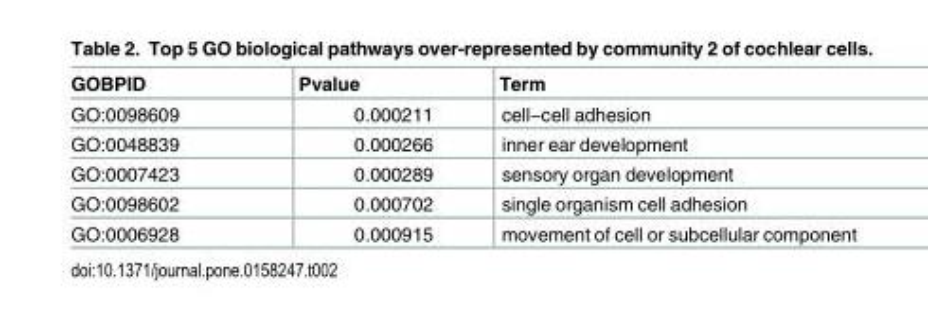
<table><thead><tr><td>GOBPID</td><td>Pvalue</td><td>Term</td></tr></thead><tbody><tr><td>GO:0098609</td><td>0.000211</td><td>cell−cell adhesion</td></tr><tr><td>GO:0048839</td><td>0.000266</td><td>inner ear development</td></tr><tr><td>GO:0007423</td><td>0.000289</td><td>sensory organ development</td></tr><tr><td>GO:0098602</td><td>0.000702</td><td>single organism cell adhesion</td></tr><tr><td>GO:0006928</td><td>0.000915</td><td>movement of cell or subcellular component</td></tr></tbody></table>